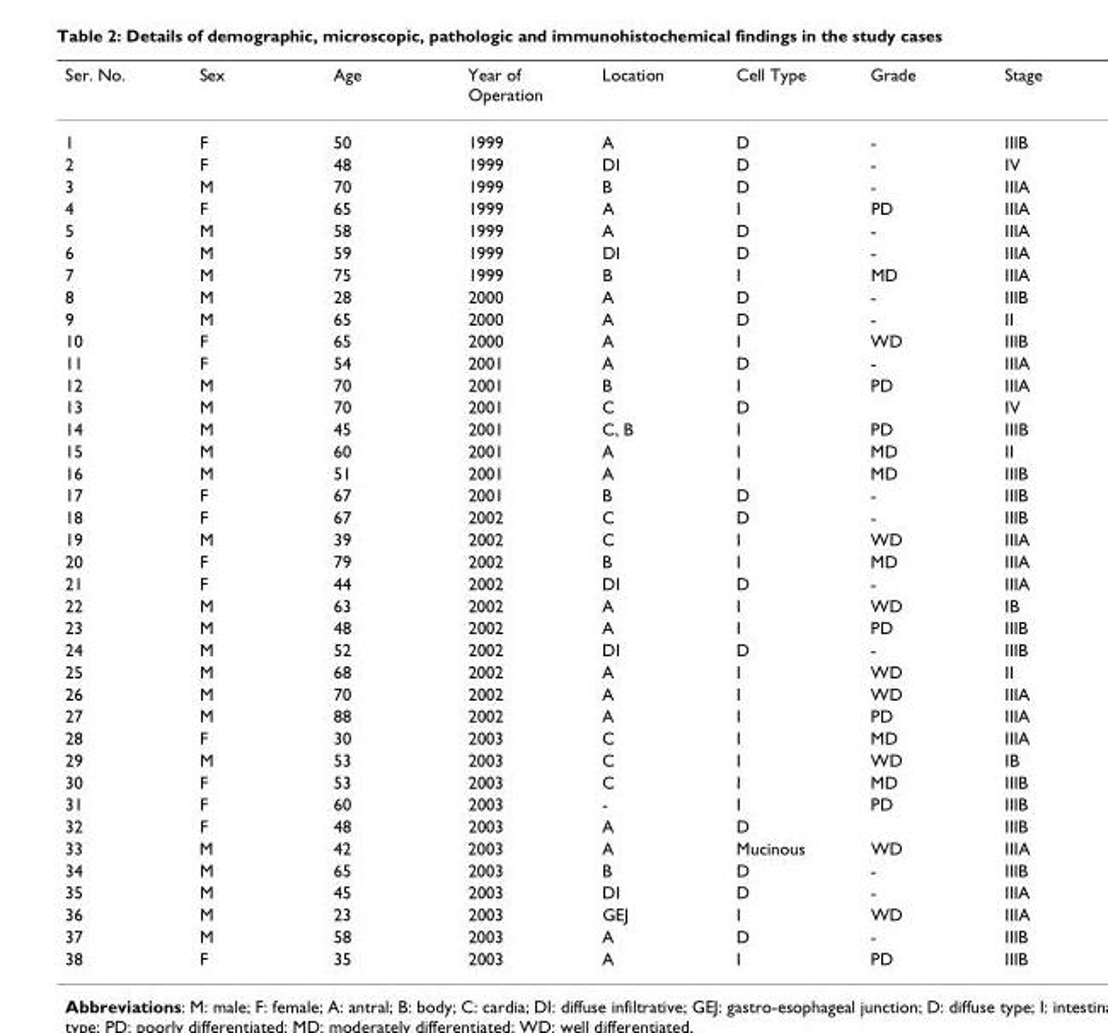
<table><thead><tr><td>Ser. No.</td><td>Sex</td><td>Age</td><td>Year of Operation</td><td>Location</td><td>Cell Type</td><td>Grade</td><td>Stage</td></tr></thead><tbody><tr><td>1</td><td>F</td><td>50</td><td>1999</td><td>A</td><td>D</td><td>-</td><td>IIIB</td></tr><tr><td>2</td><td>F</td><td>48</td><td>1999</td><td>DI</td><td>D</td><td>-</td><td>IV</td></tr><tr><td>3</td><td>M</td><td>70</td><td>1999</td><td>B</td><td>D</td><td>-</td><td>IIIA</td></tr><tr><td>4</td><td>F</td><td>65</td><td>1999</td><td>A</td><td>I</td><td>PD</td><td>IIIA</td></tr><tr><td>5</td><td>M</td><td>58</td><td>1999</td><td>A</td><td>D</td><td>-</td><td>IIIA</td></tr><tr><td>6</td><td>M</td><td>59</td><td>1999</td><td>DI</td><td>D</td><td>-</td><td>IIIA</td></tr><tr><td>7</td><td>M</td><td>75</td><td>1999</td><td>B</td><td>I</td><td>MD</td><td>IIIA</td></tr><tr><td>8</td><td>M</td><td>28</td><td>2000</td><td>A</td><td>D</td><td>-</td><td>IIIB</td></tr><tr><td>9</td><td>M</td><td>65</td><td>2000</td><td>A</td><td>D</td><td>-</td><td>II</td></tr><tr><td>10</td><td>F</td><td>65</td><td>2000</td><td>A</td><td>I</td><td>WD</td><td>IIIB</td></tr><tr><td>11</td><td>F</td><td>54</td><td>2001</td><td>A</td><td>D</td><td>-</td><td>IIIA</td></tr><tr><td>12</td><td>M</td><td>70</td><td>2001</td><td>B</td><td>I</td><td>PD</td><td>IIIA</td></tr><tr><td>13</td><td>M</td><td>70</td><td>2001</td><td>C</td><td>D</td><td></td><td>IV</td></tr><tr><td>14</td><td>M</td><td>45</td><td>2001</td><td>C, B</td><td>I</td><td>PD</td><td>IIIB</td></tr><tr><td>15</td><td>M</td><td>60</td><td>2001</td><td>A</td><td>I</td><td>MD</td><td>II</td></tr><tr><td>16</td><td>M</td><td>51</td><td>2001</td><td>A</td><td>I</td><td>MD</td><td>IIIB</td></tr><tr><td>17</td><td>F</td><td>67</td><td>2001</td><td>B</td><td>D</td><td>-</td><td>IIIB</td></tr><tr><td>18</td><td>F</td><td>67</td><td>2002</td><td>C</td><td>D</td><td>-</td><td>IIIB</td></tr><tr><td>19</td><td>M</td><td>39</td><td>2002</td><td>C</td><td>I</td><td>WD</td><td>IIIA</td></tr><tr><td>20</td><td>F</td><td>79</td><td>2002</td><td>B</td><td>I</td><td>MD</td><td>IIIA</td></tr><tr><td>21</td><td>F</td><td>44</td><td>2002</td><td>DI</td><td>D</td><td>-</td><td>IIIA</td></tr><tr><td>22</td><td>M</td><td>63</td><td>2002</td><td>A</td><td>I</td><td>WD</td><td>IB</td></tr><tr><td>23</td><td>M</td><td>48</td><td>2002</td><td>A</td><td>I</td><td>PD</td><td>IIIB</td></tr><tr><td>24</td><td>M</td><td>52</td><td>2002</td><td>DI</td><td>D</td><td>-</td><td>IIIB</td></tr><tr><td>25</td><td>M</td><td>68</td><td>2002</td><td>A</td><td>I</td><td>WD</td><td>II</td></tr><tr><td>26</td><td>M</td><td>70</td><td>2002</td><td>A</td><td>I</td><td>WD</td><td>IIIA</td></tr><tr><td>27</td><td>M</td><td>88</td><td>2002</td><td>A</td><td>I</td><td>PD</td><td>IIIA</td></tr><tr><td>28</td><td>F</td><td>30</td><td>2003</td><td>C</td><td>I</td><td>MD</td><td>IIIA</td></tr><tr><td>29</td><td>M</td><td>53</td><td>2003</td><td>C</td><td>I</td><td>WD</td><td>IB</td></tr><tr><td>30</td><td>F</td><td>53</td><td>2003</td><td>C</td><td>I</td><td>MD</td><td>IIIB</td></tr><tr><td>31</td><td>F</td><td>60</td><td>2003</td><td>-</td><td>I</td><td>PD</td><td>IIIB</td></tr><tr><td>32</td><td>F</td><td>48</td><td>2003</td><td>A</td><td>D</td><td></td><td>IIIB</td></tr><tr><td>33</td><td>M</td><td>42</td><td>2003</td><td>A</td><td>Mucinous</td><td>WD</td><td>IIIA</td></tr><tr><td>34</td><td>M</td><td>65</td><td>2003</td><td>B</td><td>D</td><td>-</td><td>IIIB</td></tr><tr><td>35</td><td>M</td><td>45</td><td>2003</td><td>DI</td><td>D</td><td>-</td><td>IIIA</td></tr><tr><td>36</td><td>M</td><td>23</td><td>2003</td><td>GEJ</td><td>I</td><td>WD</td><td>IIIA</td></tr><tr><td>37</td><td>M</td><td>58</td><td>2003</td><td>A</td><td>D</td><td>-</td><td>IIIB</td></tr><tr><td>38</td><td>F</td><td>35</td><td>2003</td><td>A</td><td>I</td><td>PD</td><td>IIIB</td></tr></tbody></table>